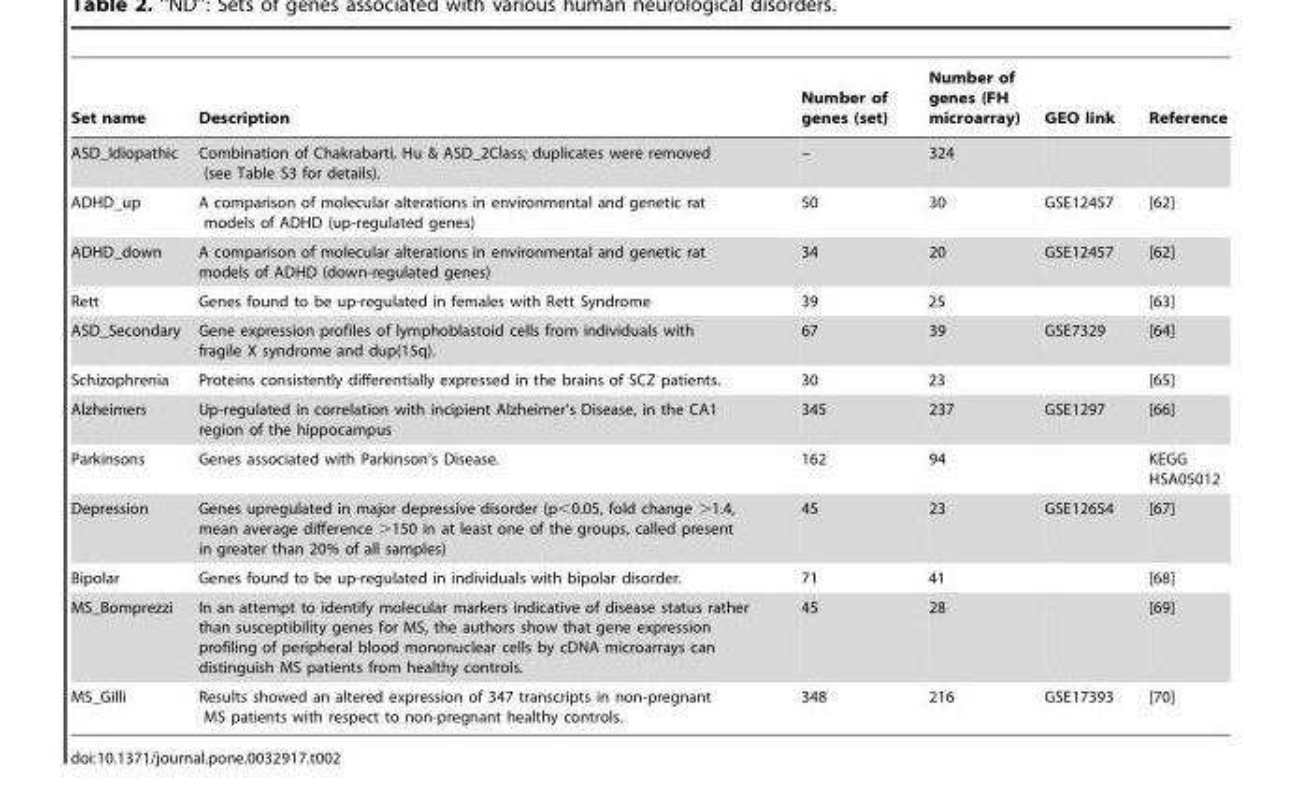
<table><thead><tr><td>Set name</td><td>Description</td><td>Number of genes (set)</td><td>Number of genes (FH microarray)</td><td>GEO link</td><td>Reference</td></tr></thead><tbody><tr><td>ASD_Idiopathic</td><td>Combination of Chakrabarti, Hu &amp; ASD_2Class; duplicates were removed (see Table S3 for details).</td><td>–</td><td>324</td><td></td><td></td></tr><tr><td>ADHD_up</td><td>A comparison of molecular alterations in environmental and genetic rat models of ADHD (up-regulated genes)</td><td>50</td><td>30</td><td>GSE12457</td><td>[62]</td></tr><tr><td>ADHD_down</td><td>A comparison of molecular alterations in environmental and genetic rat models of ADHD (down-regulated genes)</td><td>34</td><td>20</td><td>GSE12457</td><td>[62]</td></tr><tr><td>Rett</td><td>Genes found to be up-regulated in females with Rett Syndrome</td><td>39</td><td>25</td><td></td><td>[63]</td></tr><tr><td>ASD_Secondary</td><td>Gene expression profiles of lymphoblastoid cells from individuals with fragile X syndrome and dup(15q).</td><td>67</td><td>39</td><td>GSE7329</td><td>[64]</td></tr><tr><td>Schizophrenia</td><td>Proteins consistently differentially expressed in the brains of SCZ patients.</td><td>30</td><td>23</td><td></td><td>[65]</td></tr><tr><td>Alzheimers</td><td>Up-regulated in correlation with incipient Alzheimer’s Disease, in the CA1 region of the hippocampus</td><td>345</td><td>237</td><td>GSE1297</td><td>[66]</td></tr><tr><td>Parkinsons</td><td>Genes associated with Parkinson’s Disease.</td><td>162</td><td>94</td><td></td><td>KEGG HSA05012</td></tr><tr><td>Depression</td><td>Genes upregulated in major depressive disorder (p&lt;0.05, fold change &gt;1.4, mean average difference &gt;150 in at least one of the groups, called present in greater than 20% of all samples)</td><td>45</td><td>23</td><td>GSE12654</td><td>[67]</td></tr><tr><td>Bipolar</td><td>Genes found to be up-regulated in individuals with bipolar disorder.</td><td>71</td><td>41</td><td></td><td>[68]</td></tr><tr><td>MS_Bomprezzi</td><td>In an attempt to identify molecular markers indicative of disease status rather than susceptibility genes for MS, the authors show that gene expression profiling of peripheral blood mononuclear cells by cDNA microarrays can distinguish MS patients from healthy controls.</td><td>45</td><td>28</td><td></td><td>[69]</td></tr><tr><td>MS_Gilli</td><td>Results showed an altered expression of 347 transcripts in non-pregnant MS patients with respect to non-pregnant healthy controls.</td><td>348</td><td>216</td><td>GSE17393</td><td>[70]</td></tr></tbody></table>